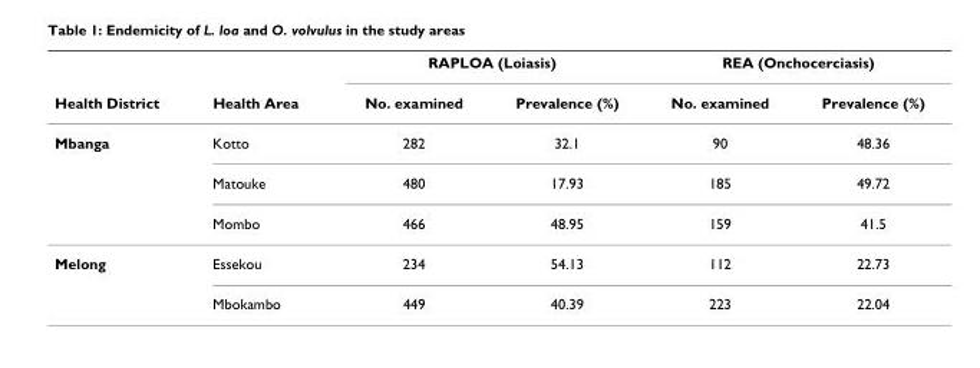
<table><thead><tr><td rowspan="2">Health District</td><td rowspan="2">Health Area</td><td colspan="2">RAPLOA (Loiasis)</td><td colspan="2">REA (Onchocerciasis)</td></tr><tr><td>No. examined</td><td>Prevalence (%)</td><td>No. examined</td><td>Prevalence (%)</td></tr></thead><tbody><tr><td rowspan="3">Mbanga</td><td>Kotto</td><td>282</td><td>32.1</td><td>90</td><td>48.36</td></tr><tr><td>Matouke</td><td>480</td><td>17.93</td><td>185</td><td>49.72</td></tr><tr><td>Mombo</td><td>466</td><td>48.95</td><td>159</td><td>41.5</td></tr><tr><td rowspan="2">Melong</td><td>Essekou</td><td>234</td><td>54.13</td><td>112</td><td>22.73</td></tr><tr><td>Mbokambo</td><td>449</td><td>40.39</td><td>223</td><td>22.04</td></tr></tbody></table>